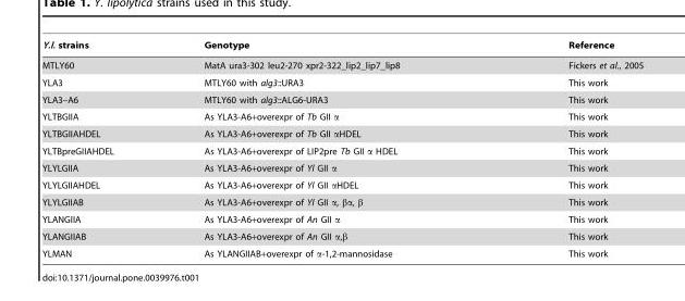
<table><thead><tr><td>Y.l. strains</td><td>Genotype</td><td>Reference</td></tr></thead><tbody><tr><td>MTLY60</td><td>MatA ura3-302 leu2-270 xpr2-322_lip2_lip7_lip8</td><td>Fickers et al., 2005</td></tr><tr><td>YLA3</td><td>MTLY60 with alg3::URA3</td><td>This work</td></tr><tr><td>YLA3–A6</td><td>MTLY60 with alg3::ALG6-URA3</td><td>This work</td></tr><tr><td>YLTBGIIA</td><td>As YLA3-A6+overexpr of Tb GII α</td><td>This work</td></tr><tr><td>YLTBGIIAHDEL</td><td>As YLA3-A6+overexpr of Tb GII αHDEL</td><td>This work</td></tr><tr><td>YLTBpreGIIAHDEL</td><td>As YLA3-A6+overexpr of LIP2pre Tb GII α HDEL</td><td>This work</td></tr><tr><td>YLYLGIIA</td><td>As YLA3-A6+overexpr of Yl GII α</td><td>This work</td></tr><tr><td>YLYLGIIAHDEL</td><td>As YLA3-A6+overexpr of Yl GII αHDEL</td><td>This work</td></tr><tr><td>YLYLGIIAB</td><td>As YLA3-A6+overexpr of Yl GII α, βα, β</td><td>This work</td></tr><tr><td>YLANGIIA</td><td>As YLA3-A6+overexpr of An GII α</td><td>This work</td></tr><tr><td>YLANGIIAB</td><td>As YLA3-A6+overexpr of An GII α,β</td><td>This work</td></tr><tr><td>YLMAN</td><td>As YLANGIIAB+overexpr of α-1,2-mannosidase</td><td>This work</td></tr></tbody></table>